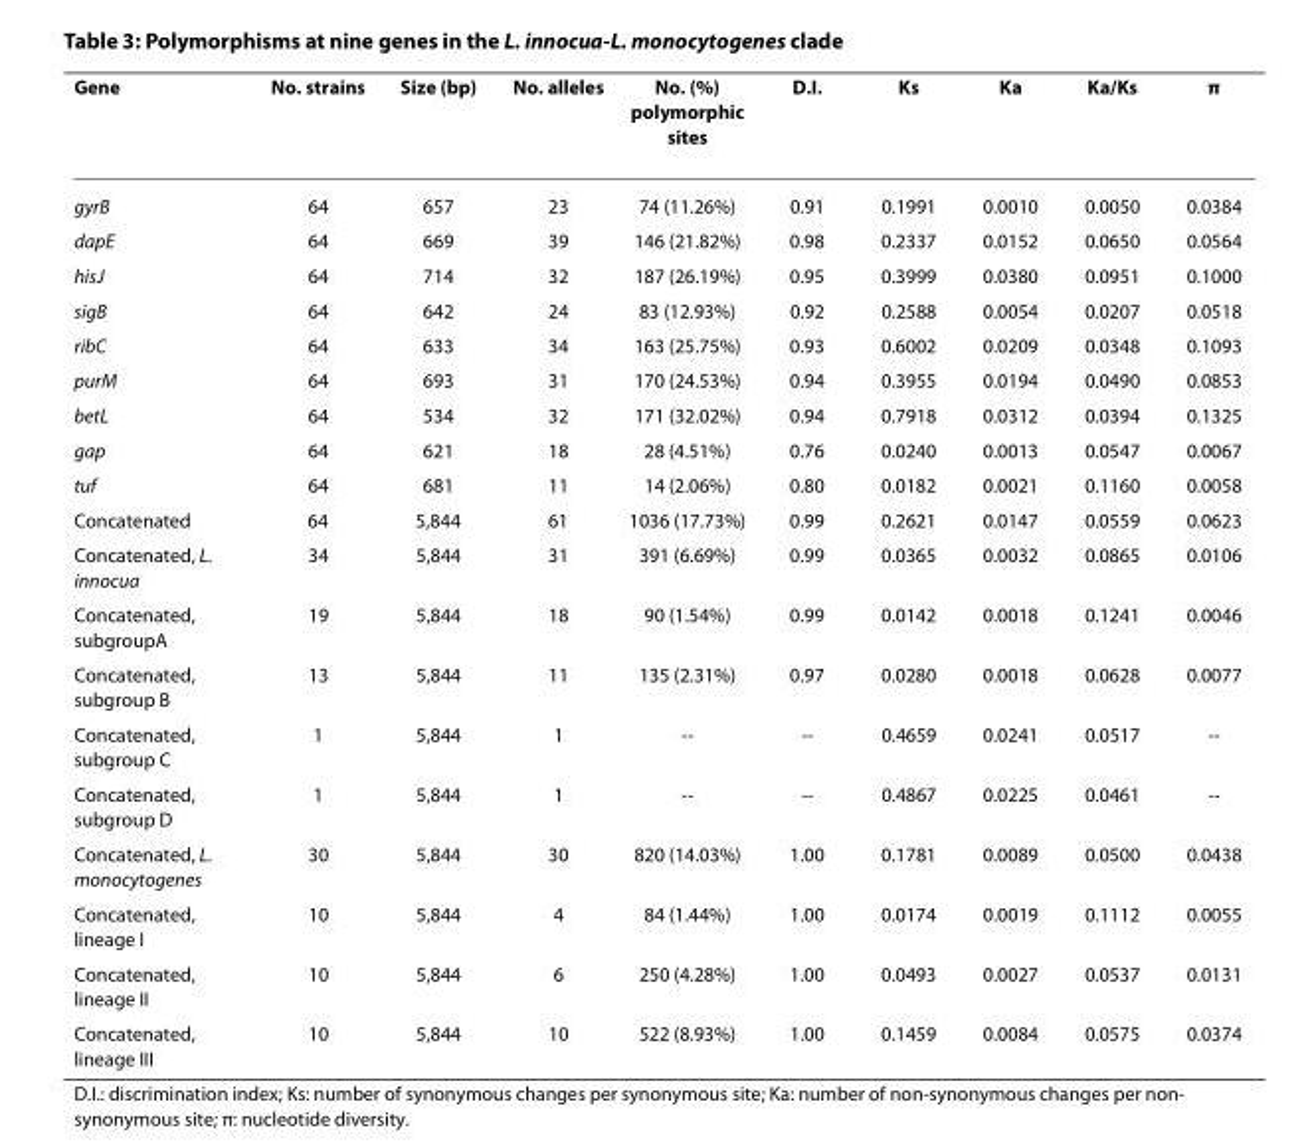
<table><thead><tr><td>Gene</td><td>No. strains</td><td>Size (bp)</td><td>No. alleles</td><td>No. (%) polymorphic sites</td><td>D.I.</td><td>Ks</td><td>Ka</td><td>Ka/Ks</td><td>π</td></tr></thead><tbody><tr><td>gyrB</td><td>64</td><td>657</td><td>23</td><td>74 (11.26%)</td><td>0.91</td><td>0.1991</td><td>0.0010</td><td>0.0050</td><td>0.0384</td></tr><tr><td>dapE</td><td>64</td><td>669</td><td>39</td><td>146 (21.82%)</td><td>0.98</td><td>0.2337</td><td>0.0152</td><td>0.0650</td><td>0.0564</td></tr><tr><td>hisJ</td><td>64</td><td>714</td><td>32</td><td>187 (26.19%)</td><td>0.95</td><td>0.3999</td><td>0.0380</td><td>0.0951</td><td>0.1000</td></tr><tr><td>sigB</td><td>64</td><td>642</td><td>24</td><td>83 (12.93%)</td><td>0.92</td><td>0.2588</td><td>0.0054</td><td>0.0207</td><td>0.0518</td></tr><tr><td>ribC</td><td>64</td><td>633</td><td>34</td><td>163 (25.75%)</td><td>0.93</td><td>0.6002</td><td>0.0209</td><td>0.0348</td><td>0.1093</td></tr><tr><td>purM</td><td>64</td><td>693</td><td>31</td><td>170 (24.53%)</td><td>0.94</td><td>0.3955</td><td>0.0194</td><td>0.0490</td><td>0.0853</td></tr><tr><td>betL</td><td>64</td><td>534</td><td>32</td><td>171 (32.02%)</td><td>0.94</td><td>0.7918</td><td>0.0312</td><td>0.0394</td><td>0.1325</td></tr><tr><td>gap</td><td>64</td><td>621</td><td>18</td><td>28 (4.51%)</td><td>0.76</td><td>0.0240</td><td>0.0013</td><td>0.0547</td><td>0.0067</td></tr><tr><td>tuf</td><td>64</td><td>681</td><td>11</td><td>14 (2.06%)</td><td>0.80</td><td>0.0182</td><td>0.0021</td><td>0.1160</td><td>0.0058</td></tr><tr><td>Concatenated</td><td>64</td><td>5,844</td><td>61</td><td>1036 (17.73%)</td><td>0.99</td><td>0.2621</td><td>0.0147</td><td>0.0559</td><td>0.0623</td></tr><tr><td>Concatenated, L. innocua</td><td>34</td><td>5,844</td><td>31</td><td>391 (6.69%)</td><td>0.99</td><td>0.0365</td><td>0.0032</td><td>0.0865</td><td>0.0106</td></tr><tr><td>Concatenated, subgroupA</td><td>19</td><td>5,844</td><td>18</td><td>90 (1.54%)</td><td>0.99</td><td>0.0142</td><td>0.0018</td><td>0.1241</td><td>0.0046</td></tr><tr><td>Concatenated, subgroup B</td><td>13</td><td>5,844</td><td>11</td><td>135 (2.31%)</td><td>0.97</td><td>0.0280</td><td>0.0018</td><td>0.0628</td><td>0.0077</td></tr><tr><td>Concatenated, subgroup C</td><td>1</td><td>5,844</td><td>1</td><td>--</td><td>--</td><td>0.4659</td><td>0.0241</td><td>0.0517</td><td>--</td></tr><tr><td>Concatenated, subgroup D</td><td>1</td><td>5,844</td><td>1</td><td>--</td><td>--</td><td>0.4867</td><td>0.0225</td><td>0.0461</td><td>--</td></tr><tr><td>Concatenated, L. monocytogenes</td><td>30</td><td>5,844</td><td>30</td><td>820 (14.03%)</td><td>1.00</td><td>0.1781</td><td>0.0089</td><td>0.0500</td><td>0.0438</td></tr><tr><td>Concatenated, lineage I</td><td>10</td><td>5,844</td><td>4</td><td>84 (1.44%)</td><td>1.00</td><td>0.0174</td><td>0.0019</td><td>0.1112</td><td>0.0055</td></tr><tr><td>Concatenated, lineage II</td><td>10</td><td>5,844</td><td>6</td><td>250 (4.28%)</td><td>1.00</td><td>0.0493</td><td>0.0027</td><td>0.0537</td><td>0.0131</td></tr><tr><td>Concatenated, lineage III</td><td>10</td><td>5,844</td><td>10</td><td>522 (8.93%)</td><td>1.00</td><td>0.1459</td><td>0.0084</td><td>0.0575</td><td>0.0374</td></tr></tbody></table>